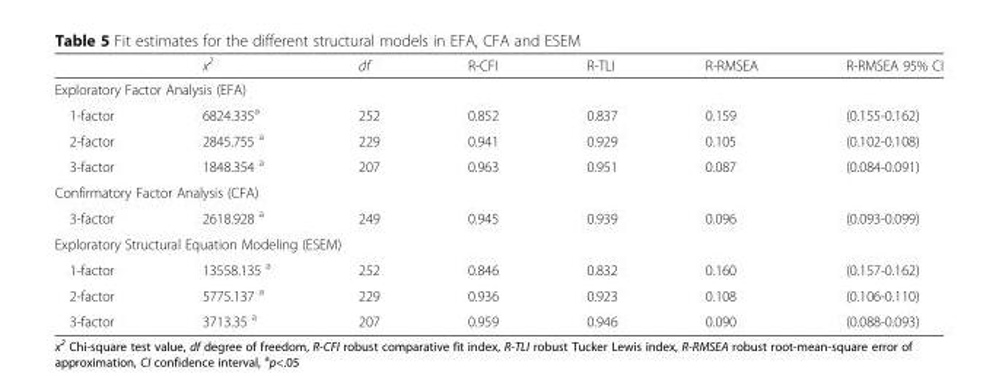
<table><thead><tr><td></td><td>х<sup>2</sup></td><td>df</td><td>R-CFI</td><td>R-TLI</td><td>R-RMSEA</td><td>R-RMSEA 95% CI</td></tr></thead><tbody><tr><td colspan="7">Exploratory Factor Analysis (EFA)</td></tr><tr><td>1-factor</td><td>6824.335<sup>a</sup></td><td>252</td><td>0.852</td><td>0.837</td><td>0.159</td><td>(0.155-0.162)</td></tr><tr><td>2-factor</td><td>2845.755 <sup>a</sup></td><td>229</td><td>0.941</td><td>0.929</td><td>0.105</td><td>(0.102-0.108)</td></tr><tr><td>3-factor</td><td>1848.354 <sup>a</sup></td><td>207</td><td>0.963</td><td>0.951</td><td>0.087</td><td>(0.084-0.091)</td></tr><tr><td colspan="7">Confirmatory Factor Analysis (CFA)</td></tr><tr><td>3-factor</td><td>2618.928 <sup>a</sup></td><td>249</td><td>0.945</td><td>0.939</td><td>0.096</td><td>(0.093-0.099)</td></tr><tr><td colspan="7">Exploratory Structural Equation Modeling (ESEM)</td></tr><tr><td>1-factor</td><td>13558.135 <sup>a</sup></td><td>252</td><td>0.846</td><td>0.832</td><td>0.160</td><td>(0.157-0.162)</td></tr><tr><td>2-factor</td><td>5775.137 <sup>a</sup></td><td>229</td><td>0.936</td><td>0.923</td><td>0.108</td><td>(0.106-0.110)</td></tr><tr><td>3-factor</td><td>3713.35 <sup>a</sup></td><td>207</td><td>0.959</td><td>0.946</td><td>0.090</td><td>(0.088-0.093)</td></tr></tbody></table>